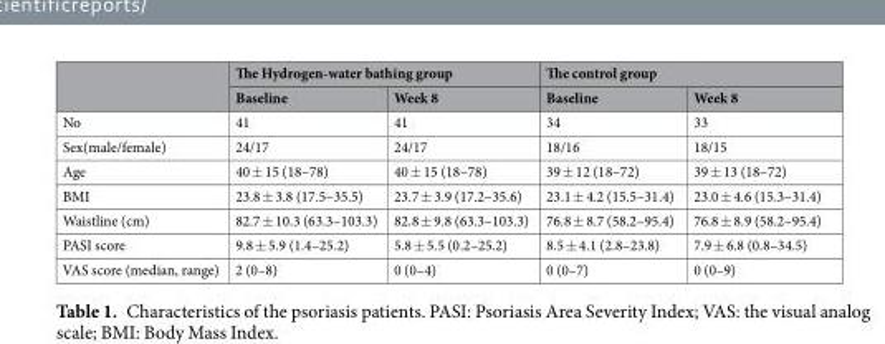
<table><thead><tr><td rowspan="2"></td><td colspan="2">The Hydrogen-water bathing group</td><td colspan="2">The control group</td></tr><tr><td>Baseline</td><td>Week 8</td><td>Baseline</td><td>Week 8</td></tr></thead><tbody><tr><td>No</td><td>41</td><td>41</td><td>34</td><td>33</td></tr><tr><td>Sex(male/female)</td><td>24/17</td><td>24/17</td><td>18/16</td><td>18/15</td></tr><tr><td>Age</td><td>40 ± 15 (18–78)</td><td>40 ± 15 (18–78)</td><td>39 ± 12 (18–72)</td><td>39 ± 13 (18–72)</td></tr><tr><td>BMI</td><td>23.8 ± 3.8 (17.5–35.5)</td><td>23.7 ± 3.9 (17.2–35.6)</td><td>23.1 ± 4.2 (15.5–31.4)</td><td>23.0 ± 4.6 (15.3–31.4)</td></tr><tr><td>Waistline (cm)</td><td>82.7 ± 10.3 (63.3–103.3)</td><td>82.8 ± 9.8 (63.3–103.3)</td><td>76.8 ± 8.7 (58.2–95.4)</td><td>76.8 ± 8.9 (58.2–95.4)</td></tr><tr><td>PASI score</td><td>9.8 ± 5.9 (1.4–25.2)</td><td>5.8 ± 5.5 (0.2–25.2)</td><td>8.5 ± 4.1 (2.8–23.8)</td><td>7.9 ± 6.8 (0.8–34.5)</td></tr><tr><td>VAS score (median, range)</td><td>2 (0–8)</td><td>0 (0–4)</td><td>0 (0–7)</td><td>0 (0–9)</td></tr></tbody></table>